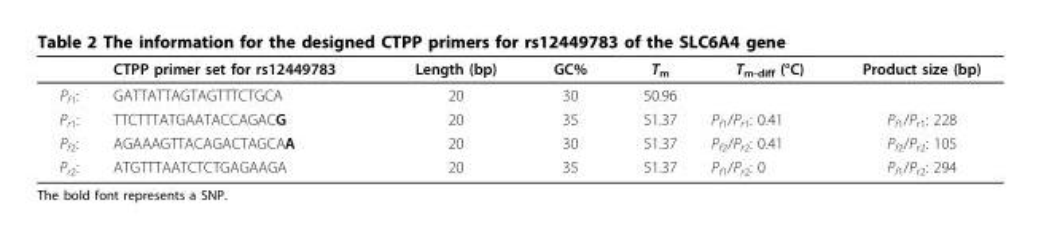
<table><thead><tr><td></td><td>CTPP primer set for rs12449783</td><td>Length (bp)</td><td>GC%</td><td>T<sub>m</sub></td><td>T<sub>m-diff</sub> (°C)</td><td>Product size (bp)</td></tr></thead><tbody><tr><td>P<sub>f1</sub>:</td><td>GATTATTAGTAGTTTCTGCA</td><td>20</td><td>30</td><td>50.96</td><td></td><td></td></tr><tr><td>P<sub>r1</sub>:</td><td>TTCTTTATGAATACCAGACG</td><td>20</td><td>35</td><td>51.37</td><td>P<sub>f1</sub>/P<sub>r1</sub>: 0.41</td><td>P<sub>f1</sub>/P<sub>r1</sub>: 228</td></tr><tr><td>P<sub>f2</sub>:</td><td>AGAAAGTTACAGACTAGCAA</td><td>20</td><td>30</td><td>51.37</td><td>P<sub>f2</sub>/P<sub>r2</sub>: 0.41</td><td>P<sub>f2</sub>/P<sub>r2</sub>: 105</td></tr><tr><td>P<sub>r2</sub>:</td><td>ATGTTTAATCTCTGAGAAGA</td><td>20</td><td>35</td><td>51.37</td><td>P<sub>f1</sub>/P<sub>r2</sub>: 0</td><td>P<sub>f1</sub>/P<sub>r2</sub>: 294</td></tr></tbody></table>